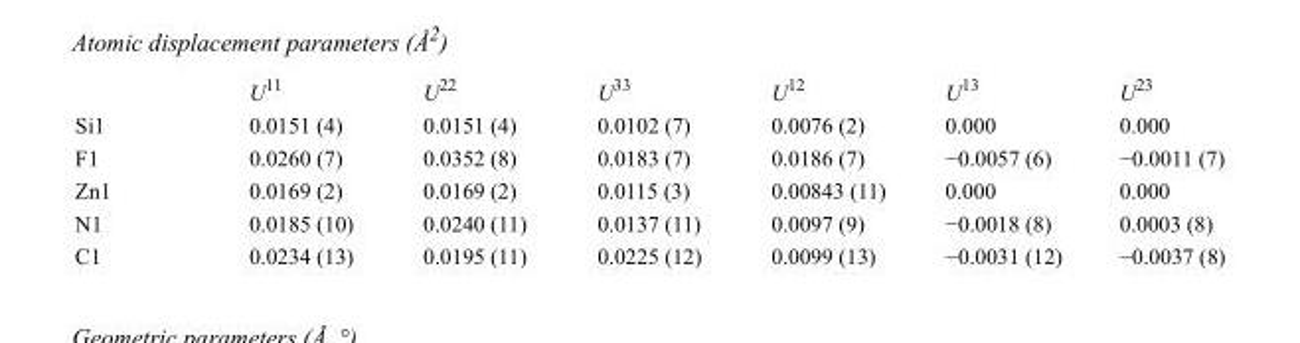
<table><thead><tr><td></td><td>U<sup>11</sup></td><td>U<sup>22</sup></td><td>U<sup>33</sup></td><td>U<sup>12</sup></td><td>U<sup>13</sup></td><td>U<sup>23</sup></td></tr></thead><tbody><tr><td>Si1</td><td>0.0151 (4)</td><td>0.0151 (4)</td><td>0.0102 (7)</td><td>0.0076 (2)</td><td>0.000</td><td>0.000</td></tr><tr><td>F1</td><td>0.0260 (7)</td><td>0.0352 (8)</td><td>0.0183 (7)</td><td>0.0186 (7)</td><td>−0.0057 (6)</td><td>−0.0011 (7)</td></tr><tr><td>Zn1</td><td>0.0169 (2)</td><td>0.0169 (2)</td><td>0.0115 (3)</td><td>0.00843 (11)</td><td>0.000</td><td>0.000</td></tr><tr><td>N1</td><td>0.0185 (10)</td><td>0.0240 (11)</td><td>0.0137 (11)</td><td>0.0097 (9)</td><td>−0.0018 (8)</td><td>0.0003 (8)</td></tr><tr><td>C1</td><td>0.0234 (13)</td><td>0.0195 (11)</td><td>0.0225 (12)</td><td>0.0099 (13)</td><td>−0.0031 (12)</td><td>−0.0037 (8)</td></tr></tbody></table>